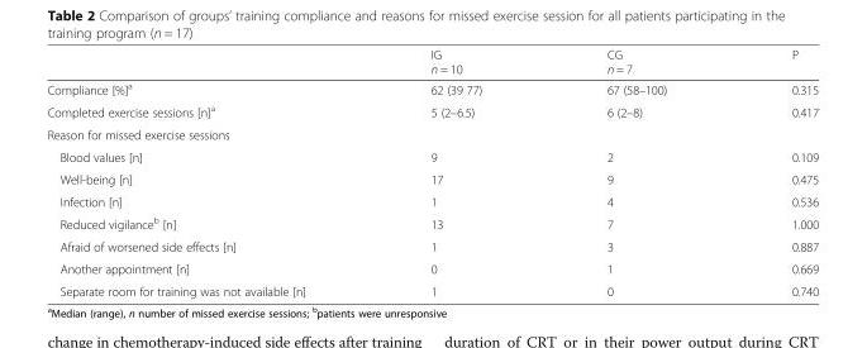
<table><thead><tr><td></td><td>IG n = 10</td><td>CG n = 7</td><td>P</td></tr></thead><tbody><tr><td>Compliance [%]<sup>a</sup></td><td>62 (39 77)</td><td>67 (58–100)</td><td>0.315</td></tr><tr><td>Completed exercise sessions [n]<sup>a</sup></td><td>5 (2–6.5)</td><td>6 (2–8)</td><td>0.417</td></tr><tr><td colspan="4">Reason for missed exercise sessions</td></tr><tr><td>Blood values [n]</td><td>9</td><td>2</td><td>0.109</td></tr><tr><td>Well-being [n]</td><td>17</td><td>9</td><td>0.475</td></tr><tr><td>Infection [n]</td><td>1</td><td>4</td><td>0.536</td></tr><tr><td>Reduced vigilance<sup>b</sup> [n]</td><td>13</td><td>7</td><td>1.000</td></tr><tr><td>Afraid of worsened side effects [n]</td><td>1</td><td>3</td><td>0.887</td></tr><tr><td>Another appointment [n]</td><td>0</td><td>1</td><td>0.669</td></tr><tr><td>Separate room for training was not available [n]</td><td>1</td><td>0</td><td>0.740</td></tr></tbody></table>